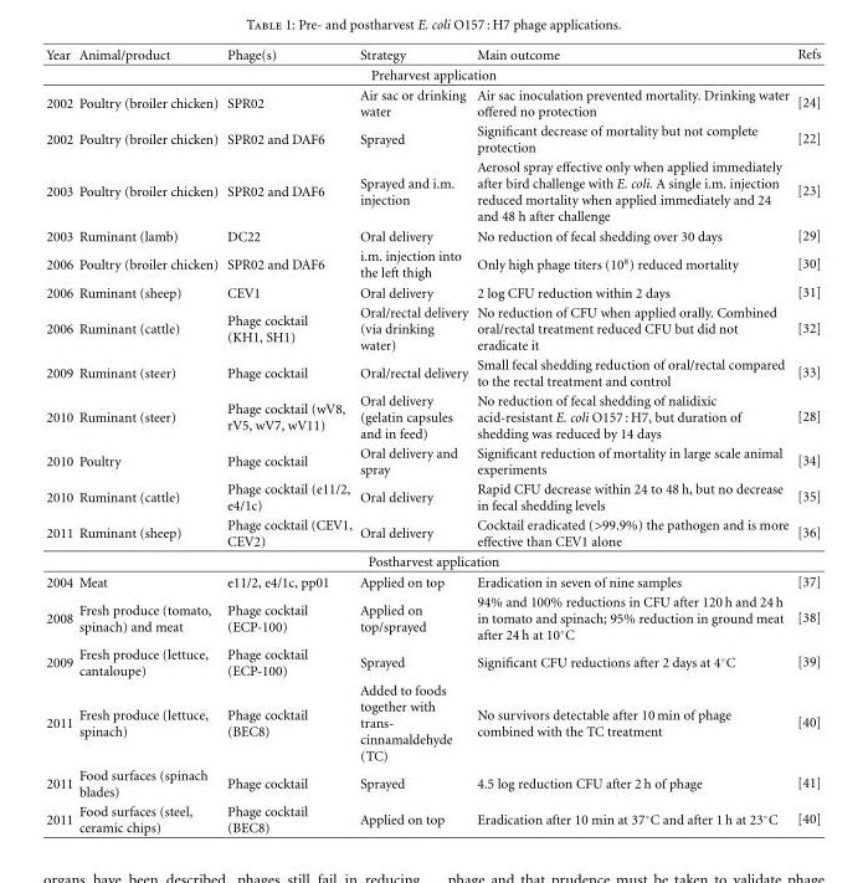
<table><thead><tr><td>Year</td><td>Animal/product</td><td>Phage(s)</td><td>Strategy</td><td>Main outcome</td><td>Refs</td></tr></thead><tbody><tr><td colspan="6">Preharvest application</td></tr><tr><td>2002</td><td>Poultry (broiler chicken)</td><td>SPR02</td><td>Air sac or drinking water</td><td>Air sac inoculation prevented mortality. Drinking water offered no protection</td><td>[24]</td></tr><tr><td>2002</td><td>Poultry (broiler chicken)</td><td>SPR02 and DAF6</td><td>Sprayed</td><td>Significant decrease of mortality but not complete protection</td><td>[22]</td></tr><tr><td>2003</td><td>Poultry (broiler chicken)</td><td>SPR02 and DAF6</td><td>Sprayed and i.m. injection</td><td>Aerosol spray effective only when applied immediately after bird challenge with E. coli. A single i.m. injection reduced mortality when applied immediately and 24 and 48 h after challenge</td><td>[23]</td></tr><tr><td>2003</td><td>Ruminant (lamb)</td><td>DC22</td><td>Oral delivery</td><td>No reduction of fecal shedding over 30 days</td><td>[29]</td></tr><tr><td>2006</td><td>Poultry (broiler chicken)</td><td>SPR02 and DAF6</td><td>i.m. injection into the left thigh</td><td>Only high phage titers (10<sup>8</sup>) reduced mortality</td><td>[30]</td></tr><tr><td>2006</td><td>Ruminant (sheep)</td><td>CEV1</td><td>Oral delivery</td><td>2 log CFU reduction within 2 days</td><td>[31]</td></tr><tr><td>2006</td><td>Ruminant (cattle)</td><td>Phage cocktail (KH1, SH1)</td><td>Oral/rectal delivery (via drinking water)</td><td>No reduction of CFU when applied orally. Combined oral/rectal treatment reduced CFU but did not eradicate it</td><td>[32]</td></tr><tr><td>2009</td><td>Ruminant (steer)</td><td>Phage cocktail</td><td>Oral/rectal delivery</td><td>Small fecal shedding reduction of oral/rectal compared to the rectal treatment and control</td><td>[33]</td></tr><tr><td>2010</td><td>Ruminant (steer)</td><td>Phage cocktail (wV8, rV5, wV7, wV11)</td><td>Oral delivery (gelatin capsules and in feed)</td><td>No reduction of fecal shedding of nalidixic acid-resistant E. coli O157 : H7, but duration of shedding was reduced by 14 days</td><td>[28]</td></tr><tr><td>2010</td><td>Poultry</td><td>Phage cocktail</td><td>Oral delivery and spray</td><td>Significant reduction of mortality in large scale animal experiments</td><td>[34]</td></tr><tr><td>2010</td><td>Ruminant (cattle)</td><td>Phage cocktail (e11/2, e4/1c)</td><td>Oral delivery</td><td>Rapid CFU decrease within 24 to 48 h, but no decrease in fecal shedding levels</td><td>[35]</td></tr><tr><td>2011</td><td>Ruminant (sheep)</td><td>Phage cocktail (CEV1, CEV2)</td><td>Oral delivery</td><td>Cocktail eradicated (&gt;99.9%) the pathogen and is more effective than CEV1 alone</td><td>[36]</td></tr><tr><td colspan="6">Postharvest application</td></tr><tr><td>2004</td><td>Meat</td><td>e11/2, e4/1c, pp01</td><td>Applied on top</td><td>Eradication in seven of nine samples</td><td>[37]</td></tr><tr><td>2008</td><td>Fresh produce (tomato, spinach) and meat</td><td>Phage cocktail (ECP-100)</td><td>Applied on top/sprayed</td><td>94% and 100% reductions in CFU after 120 h and 24 h in tomato and spinach; 95% reduction in ground meat after 24 h at 10◦C</td><td>[38]</td></tr><tr><td>2009</td><td>Fresh produce (lettuce, cantaloupe)</td><td>Phage cocktail (ECP-100)</td><td>Sprayed</td><td>Significant CFU reductions after 2 days at 4◦C</td><td>[39]</td></tr><tr><td>2011</td><td>Fresh produce (lettuce, spinach)</td><td>Phage cocktail (BEC8)</td><td>Added to foods together with trans- cinnamaldehyde (TC)</td><td>No survivors detectable after 10 min of phage combined with the TC treatment</td><td>[40]</td></tr><tr><td>2011</td><td>Food surfaces (spinach blades)</td><td>Phage cocktail</td><td>Sprayed</td><td>4.5 log reduction CFU after 2 h of phage</td><td>[41]</td></tr><tr><td>2011</td><td>Food surfaces (steel, ceramic chips)</td><td>Phage cocktail (BEC8)</td><td>Applied on top</td><td>Eradication after 10 min at 37◦C and after 1 h at 23◦C</td><td>[40]</td></tr></tbody></table>